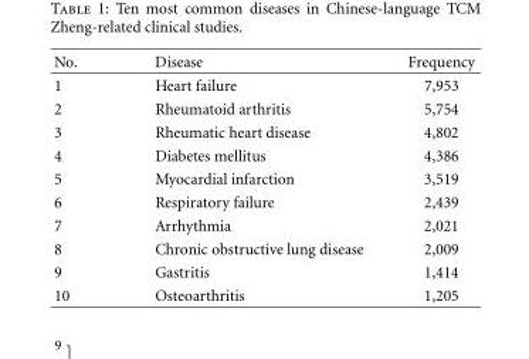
<table><thead><tr><td>No.</td><td>Disease</td><td>Frequency</td></tr></thead><tbody><tr><td>1</td><td>Heart failure</td><td>7,953</td></tr><tr><td>2</td><td>Rheumatoid arthritis</td><td>5,754</td></tr><tr><td>3</td><td>Rheumatic heart disease</td><td>4,802</td></tr><tr><td>4</td><td>Diabetes mellitus</td><td>4,386</td></tr><tr><td>5</td><td>Myocardial infarction</td><td>3,519</td></tr><tr><td>6</td><td>Respiratory failure</td><td>2,439</td></tr><tr><td>7</td><td>Arrhythmia</td><td>2,021</td></tr><tr><td>8</td><td>Chronic obstructive lung disease</td><td>2,009</td></tr><tr><td>9</td><td>Gastritis</td><td>1,414</td></tr><tr><td>10</td><td>Osteoarthritis</td><td>1,205</td></tr></tbody></table>